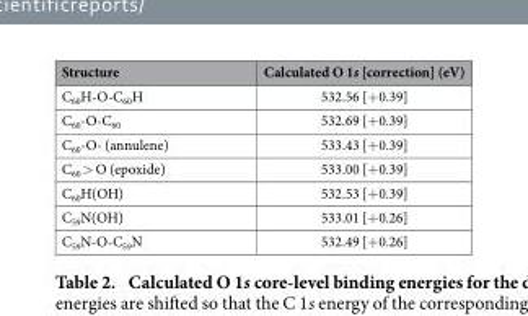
<table><thead><tr><td>Structure</td><td>Calculated O 1s [correction] (eV)</td></tr></thead><tbody><tr><td>C<sub>60</sub>H-O-C<sub>60</sub>H</td><td>532.56 [+ 0.39]</td></tr><tr><td>C<sub>60</sub>-O-C<sub>60</sub></td><td>532.69 [+ 0.39]</td></tr><tr><td>C<sub>60</sub>-O- (annulene)</td><td>533.43 [+ 0.39]</td></tr><tr><td>C<sub>60</sub> &gt; O (epoxide)</td><td>533.00 [+ 0.39]</td></tr><tr><td>C<sub>60</sub>H(OH)</td><td>532.53 [+ 0.39]</td></tr><tr><td>C<sub>59</sub>N(OH)</td><td>533.01 [+ 0.26]</td></tr><tr><td>C<sub>59</sub>N-O-C<sub>59</sub>N</td><td>532.49 [+ 0.26]</td></tr></tbody></table>